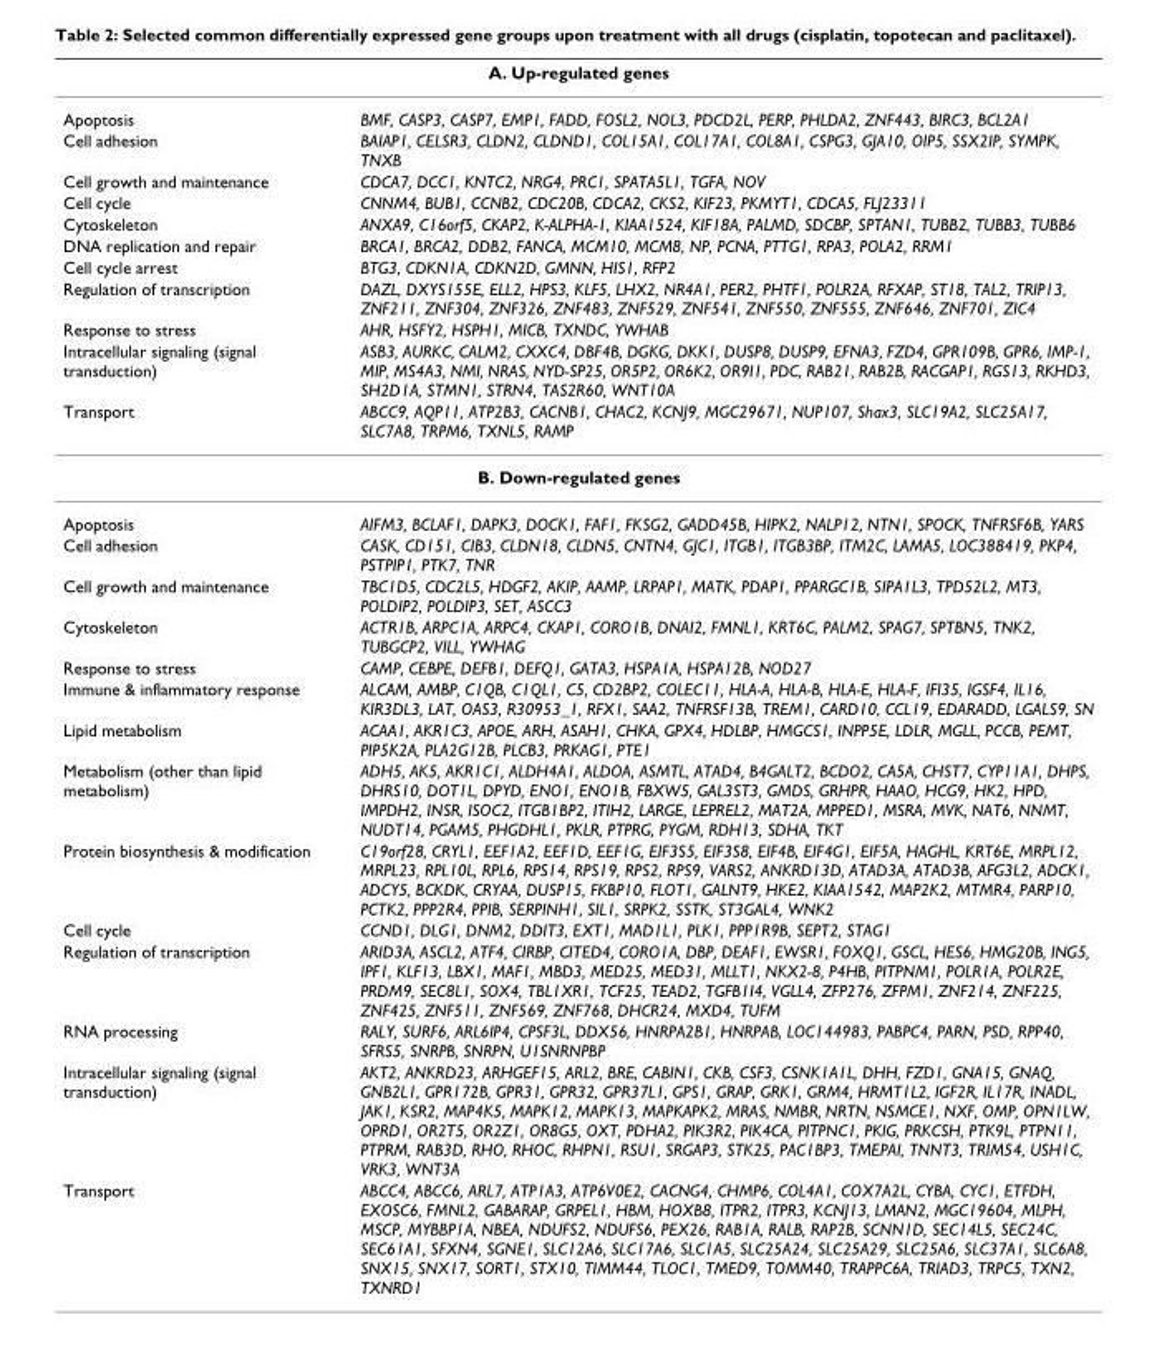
<table><thead><tr><td colspan="2">A. Up-regulated genes</td></tr><tr><td>Apoptosis</td><td>BMF, CASP3, CASP7, EMP1, FADD, FOSL2, NOL3, PDCD2L, PERP, PHLDA2, ZNF443, BIRC3, BCL2A1</td></tr></thead><tbody><tr><td>Cell adhesion</td><td>BAIAP1, CELSR3, CLDN2, CLDND1, COL15A1, COL17A1, COL8A1, CSPG3, GJA10, OIP5, SSX2IP, SYMPK, TNXB</td></tr><tr><td>Cell growth and maintenance</td><td>CDCA7, DCC1, KNTC2, NRG4, PRC1, SPATA5L1, TGFA, NOV</td></tr><tr><td>Cell cycle</td><td>CNNM4, BUB1, CCNB2, CDC20B, CDCA2, CKS2, KIF23, PKMYT1, CDCA5, FLJ23311</td></tr><tr><td>Cytoskeleton</td><td>ANXA9, C16orf5, CKAP2, K-ALPHA-1, KIAA1524, KIF18A, PALMD, SDCBP, SPTAN1, TUBB2, TUBB3, TUBB6</td></tr><tr><td>DNA replication and repair</td><td>BRCA1, BRCA2, DDB2, FANCA, MCM10, MCM8, NP, PCNA, PTTG1, RPA3, POLA2, RRM1</td></tr><tr><td>Cell cycle arrest</td><td>BTG3, CDKN1A, CDKN2D, GMNN, HIS1, RFP2</td></tr><tr><td>Regulation of transcription</td><td>DAZL, DXYS155E, ELL2, HPS3, KLF5, LHX2, NR4A1, PER2, PHTF1, POLR2A, RFXAP, ST18, TAL2, TRIP13, ZNF211, ZNF304, ZNF326, ZNF483, ZNF529, ZNF541, ZNF550, ZNF555, ZNF646, ZNF701, ZIC4</td></tr><tr><td>Response to stress</td><td>AHR, HSFY2, HSPH1, MICB, TXNDC, YWHAB</td></tr><tr><td>Intracellular signaling (signal transduction)</td><td>ASB3, AURKC, CALM2, CXXC4, DBF4B, DGKG, DKK1, DUSP8, DUSP9, EFNA3, FZD4, GPR109B, GPR6, IMP-1, MIP, MS4A3, NMI, NRAS, NYD-SP25, OR5P2, OR6K2, OR9I1, PDC, RAB21, RAB2B, RACGAP1, RGS13, RKHD3, SH2D1A, STMN1, STRN4, TAS2R60, WNT10A</td></tr><tr><td>Transport</td><td>ABCC9, AQP11, ATP2B3, CACNB1, CHAC2, KCNJ9, MGC29671, NUP107, Shax3, SLC19A2, SLC25A17, SLC7A8, TRPM6, TXNL5, RAMP</td></tr><tr><td colspan="2">B. Down-regulated genes</td></tr><tr><td>Apoptosis</td><td>AIFM3, BCLAF1, DAPK3, DOCK1, FAF1, FKSG2, GADD45B, HIPK2, NALP12, NTN1, SPOCK, TNFRSF6B, YARS</td></tr><tr><td>Cell adhesion</td><td>CASK, CD151, CIB3, CLDN18, CLDN5, CNTN4, GJC1, ITGB1, ITGB3BP, ITM2C, LAMA5, LOC388419, PKP4, PSTPIP1, PTK7, TNR</td></tr><tr><td>Cell growth and maintenance</td><td>TBC1D5, CDC2L5, HDGF2, AKIP, AAMP, LRPAP1, MATK, PDAP1, PPARGC1B, SIPA1L3, TPD52L2, MT3, POLDIP2, POLDIP3, SET, ASCC3</td></tr><tr><td>Cytoskeleton</td><td>ACTR1B, ARPC1A, ARPC4, CKAP1, CORO1B, DNAI2, FMNL1, KRT6C, PALM2, SPAG7, SPTBN5, TNK2, TUBGCP2, VILL, YWHAG</td></tr><tr><td>Response to stress</td><td>CAMP, CEBPE, DEFB1, DEFQ1, GATA3, HSPA1A, HSPA12B, NOD27</td></tr><tr><td>Immune &amp; inflammatory response</td><td>ALCAM, AMBP, C1QB, C1QL1, C5, CD2BP2, COLEC11, HLA-A, HLA-B, HLA-E, HLA-F, IFI35, IGSF4, IL16, KIR3DL3, LAT, OAS3, R30953_1, RFX1, SAA2, TNFRSF13B, TREM1, CARD10, CCL19, EDARADD, LGALS9, SN</td></tr><tr><td>Lipid metabolism</td><td>ACAA1, AKR1C3, APOE, ARH, ASAH1, CHKA, GPX4, HDLBP, HMGCS1, INPP5E, LDLR, MGLL, PCCB, PEMT, PIP5K2A, PLA2G12B, PLCB3, PRKAG1, PTE1</td></tr><tr><td>Metabolism (other than lipid metabolism)</td><td>ADH5, AK5, AKR1C1, ALDH4A1, ALDOA, ASMTL, ATAD4, B4GALT2, BCDO2, CA5A, CHST7, CYP11A1, DHPS, DHRS10, DOT1L, DPYD, ENO1, ENO1B, FBXW5, GAL3ST3, GMDS, GRHPR, HAAO, HCG9, HK2, HPD, IMPDH2, INSR, ISOC2, ITGB1BP2, ITIH2, LARGE, LEPREL2, MAT2A, MPPED1, MSRA, MVK, NAT6, NNMT, NUDT14, PGAM5, PHGDHL1, PKLR, PTPRG, PYGM, RDH13, SDHA, TKT</td></tr><tr><td>Protein biosynthesis &amp; modification</td><td>C19orf28, CRYL1, EEF1A2, EEF1D, EEF1G, EIF3S5, EIF3S8, EIF4B, EIF4G1, EIF5A, HAGHL, KRT6E, MRPL12, MRPL23, RPL10L, RPL6, RPS14, RPS19, RPS2, RPS9, VARS2, ANKRD13D, ATAD3A, ATAD3B, AFG3L2, ADCK1, ADCY5, BCKDK, CRYAA, DUSP15, FKBP10, FLOT1, GALNT9, HKE2, KIAA1542, MAP2K2, MTMR4, PARP10, PCTK2, PPP2R4, PPIB, SERPINH1, SIL1, SRPK2, SSTK, ST3GAL4, WNK2</td></tr><tr><td>Cell cycle</td><td>CCND1, DLG1, DNM2, DDIT3, EXT1, MAD1L1, PLK1, PPP1R9B, SEPT2, STAG1</td></tr><tr><td>Regulation of transcription</td><td>ARID3A, ASCL2, ATF4, CIRBP, CITED4, CORO1A, DBP, DEAF1, EWSR1, FOXQ1, GSCL, HES6, HMG20B, ING5, IPF1, KLF13, LBX1, MAF1, MBD3, MED25, MED31, MLLT1, NKX2-8, P4HB, PITPNM1, POLR1A, POLR2E, PRDM9, SEC8L1, SOX4, TBL1XR1, TCF25, TEAD2, TGFB1I4, VGLL4, ZFP276, ZFPM1, ZNF214, ZNF225, ZNF425, ZNF511, ZNF569, ZNF768, DHCR24, MXD4, TUFM</td></tr><tr><td>RNA processing</td><td>RALY, SURF6, ARL6IP4, CPSF3L, DDX56, HNRPA2B1, HNRPAB, LOC144983, PABPC4, PARN, PSD, RPP40, SFRS5, SNRPB, SNRPN, U1SNRNPBP</td></tr><tr><td>Intracellular signaling (signal transduction)</td><td>AKT2, ANKRD23, ARHGEF15, ARL2, BRE, CABIN1, CKB, CSF3, CSNK1A1L, DHH, FZD1, GNA15, GNAQ, GNB2L1, GPR172B, GPR31, GPR32, GPR37L1, GPS1, GRAP, GRK1, GRM4, HRMT1L2, IGF2R, IL17R, INADL, JAK1, KSR2, MAP4K5, MAPK12, MAPK13, MAPKAPK2, MRAS, NMBR, NRTN, NSMCE1, NXF, OMP, OPN1LW, OPRD1, OR2T5, OR2Z1, OR8G5, OXT, PDHA2, PIK3R2, PIK4CA, PITPNC1, PKIG, PRKCSH, PTK9L, PTPN11, PTPRM, RAB3D, RHO, RHOC, RHPN1, RSU1, SRGAP3, STK25, PAC1BP3, TMEPAI, TNNT3, TRIM54, USH1C, VRK3, WNT3A</td></tr><tr><td>Transport</td><td>ABCC4, ABCC6, ARL7, ATP1A3, ATP6V0E2, CACNG4, CHMP6, COL4A1, COX7A2L, CYBA, CYC1, ETFDH, EXOSC6, FMNL2, GABARAP, GRPEL1, HBM, HOXB8, ITPR2, ITPR3, KCNJ13, LMAN2, MGC19604, MLPH, MSCP, MYBBP1A, NBEA, NDUFS2, NDUFS6, PEX26, RAB1A, RALB, RAP2B, SCNN1D, SEC14L5, SEC24C, SEC61A1, SFXN4, SGNE1, SLC12A6, SLC17A6, SLC1A5, SLC25A24, SLC25A29, SLC25A6, SLC37A1, SLC6A8, SNX15, SNX17, SORT1, STX10, TIMM44, TLOC1, TMED9, TOMM40, TRAPPC6A, TRIAD3, TRPC5, TXN2, TXNRD1</td></tr></tbody></table>